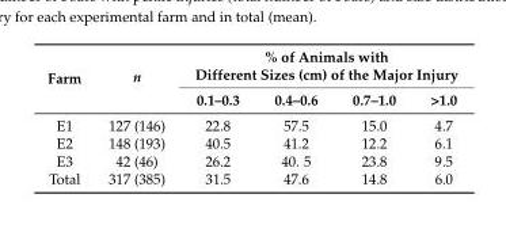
<table><thead><tr><td rowspan="2">Farm</td><td rowspan="2">n</td><td colspan="4">% of Animals with Different Sizes (cm) of the Major Injury</td></tr><tr><td>0.1–0.3</td><td>0.4–0.6</td><td>0.7–1.0</td><td>&gt;1.0</td></tr></thead><tbody><tr><td>E1</td><td>127 (146)</td><td>22.8</td><td>57.5</td><td>15.0</td><td>4.7</td></tr><tr><td>E2</td><td>148 (193)</td><td>40.5</td><td>41.2</td><td>12.2</td><td>6.1</td></tr><tr><td>E3</td><td>42 (46)</td><td>26.2</td><td>40. 5</td><td>23.8</td><td>9.5</td></tr><tr><td>Total</td><td>317 (385)</td><td>31.5</td><td>47.6</td><td>14.8</td><td>6.0</td></tr></tbody></table>